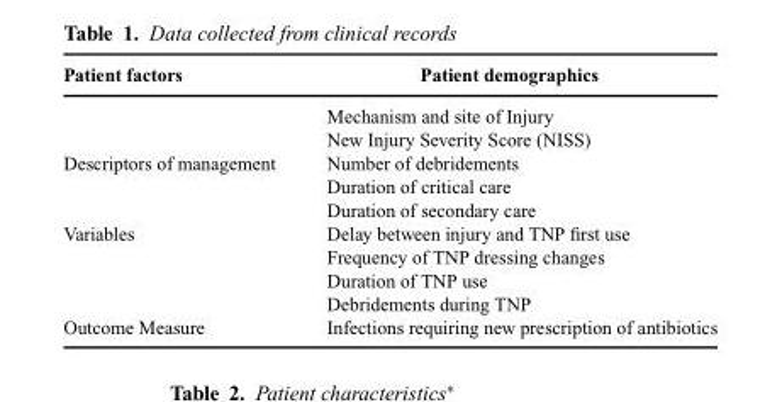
<table><thead><tr><td>Patient factors</td><td>Patient demographics</td></tr></thead><tbody><tr><td></td><td>Mechanism and site of Injury</td></tr><tr><td></td><td>New Injury Severity Score (NISS)</td></tr><tr><td rowspan="3">Descriptors of management</td><td>Number of debridements</td></tr><tr><td>Duration of critical care</td></tr><tr><td>Duration of secondary care</td></tr><tr><td rowspan="4">Variables</td><td>Delay between injury and TNP first use</td></tr><tr><td>Frequency of TNP dressing changes</td></tr><tr><td>Duration of TNP use</td></tr><tr><td>Debridements during TNP</td></tr><tr><td>Outcome Measure</td><td>Infections requiring new prescription of antibiotics</td></tr></tbody></table>